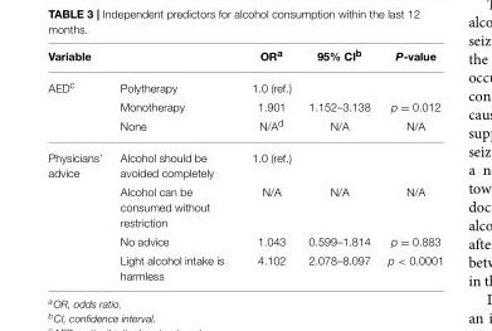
<table><thead><tr><td>Variable</td><td></td><td>OR<sup>a</sup></td><td>95% CI<sup>b</sup></td><td>P-value</td></tr></thead><tbody><tr><td rowspan="3">AED<sup>c</sup></td><td>Polytherapy</td><td>1.0 (ref.)</td><td></td><td></td></tr><tr><td>Monotherapy</td><td>1.901</td><td>1.152–3.138</td><td>p = 0.012</td></tr><tr><td>None</td><td>N/A<sup>d</sup></td><td>N/A</td><td>N/A</td></tr><tr><td rowspan="4">Physicians’ advice</td><td>Alcohol should be avoided completely</td><td>1.0 (ref.)</td><td></td><td></td></tr><tr><td>Alcohol can be consumed without restriction</td><td>N/A</td><td>N/A</td><td>N/A</td></tr><tr><td>No advice</td><td>1.043</td><td>0.599–1.814</td><td>p = 0.883</td></tr><tr><td>Light alcohol intake is harmless</td><td>4.102</td><td>2.078–8.097</td><td>p &lt; 0.0001</td></tr></tbody></table>